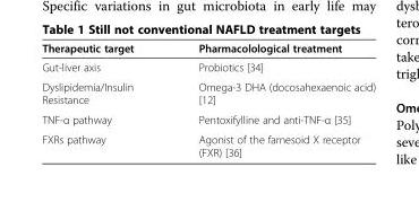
<table><thead><tr><td>Therapeutic target</td><td>Pharmacolological treatment</td></tr></thead><tbody><tr><td>Gut-liver axis</td><td>Probiotics [34]</td></tr><tr><td>Dyslipidemia/Insulin Resistance</td><td>Omega-3 DHA (docosahexaenoic acid) [12]</td></tr><tr><td>TNF-α pathway</td><td>Pentoxifylline and anti-TNF-α [35]</td></tr><tr><td>FXRs pathway</td><td>Agonist of the farnesoid X receptor (FXR) [36]</td></tr></tbody></table>